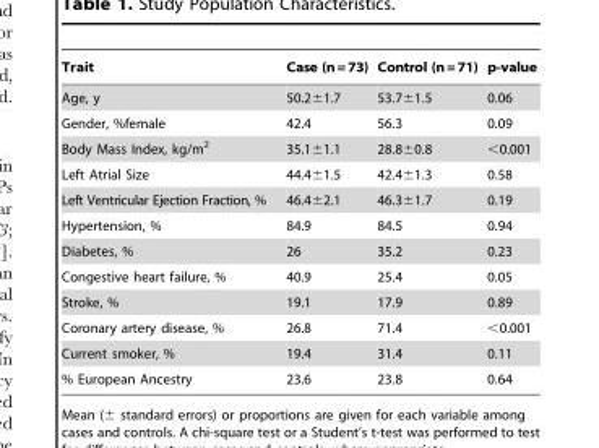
<table><thead><tr><td>Trait</td><td>Case (n=73)</td><td>Control (n=71)</td><td>p-value</td></tr></thead><tbody><tr><td>Age, y</td><td>50.2±1.7</td><td>53.7±1.5</td><td>0.06</td></tr><tr><td>Gender, %female</td><td>42.4</td><td>56.3</td><td>0.09</td></tr><tr><td>Body Mass Index, kg/m<sup>2</sup></td><td>35.1±1.1</td><td>28.8±0.8</td><td>&lt;0.001</td></tr><tr><td>Left Atrial Size</td><td>44.4±1.5</td><td>42.4±1.3</td><td>0.58</td></tr><tr><td>Left Ventricular Ejection Fraction, %</td><td>46.4±2.1</td><td>46.3±1.7</td><td>0.19</td></tr><tr><td>Hypertension, %</td><td>84.9</td><td>84.5</td><td>0.94</td></tr><tr><td>Diabetes, %</td><td>26</td><td>35.2</td><td>0.23</td></tr><tr><td>Congestive heart failure, %</td><td>40.9</td><td>25.4</td><td>0.05</td></tr><tr><td>Stroke, %</td><td>19.1</td><td>17.9</td><td>0.89</td></tr><tr><td>Coronary artery disease, %</td><td>26.8</td><td>71.4</td><td>&lt;0.001</td></tr><tr><td>Current smoker, %</td><td>19.4</td><td>31.4</td><td>0.11</td></tr><tr><td>% European Ancestry</td><td>23.6</td><td>23.8</td><td>0.64</td></tr></tbody></table>